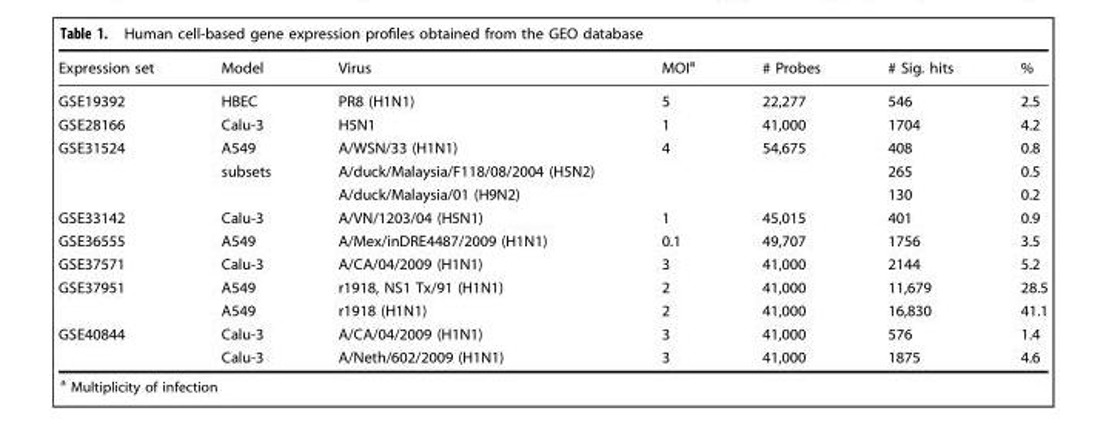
<table><thead><tr><td>Expression set</td><td>Model</td><td>Virus</td><td>MOI<sup>a</sup></td><td># Probes</td><td># Sig. hits</td><td>%</td></tr></thead><tbody><tr><td>GSE19392</td><td>HBEC</td><td>PR8 (H1N1)</td><td>5</td><td>22,277</td><td>546</td><td>2.5</td></tr><tr><td>GSE28166</td><td>Calu-3</td><td>H5N1</td><td>1</td><td>41,000</td><td>1704</td><td>4.2</td></tr><tr><td rowspan="3">GSE31524</td><td>A549</td><td>A/WSN/33 (H1N1)</td><td>4</td><td>54,675</td><td>408</td><td>0.8</td></tr><tr><td>subsets</td><td>A/duck/Malaysia/F118/08/2004 (H5N2)</td><td></td><td></td><td>265</td><td>0.5</td></tr><tr><td></td><td>A/duck/Malaysia/01 (H9N2)</td><td></td><td></td><td>130</td><td>0.2</td></tr><tr><td>GSE33142</td><td>Calu-3</td><td>A/VN/1203/04 (H5N1)</td><td>1</td><td>45,015</td><td>401</td><td>0.9</td></tr><tr><td>GSE36555</td><td>A549</td><td>A/Mex/inDRE4487/2009 (H1N1)</td><td>0.1</td><td>49,707</td><td>1756</td><td>3.5</td></tr><tr><td>GSE37571</td><td>Calu-3</td><td>A/CA/04/2009 (H1N1)</td><td>3</td><td>41,000</td><td>2144</td><td>5.2</td></tr><tr><td rowspan="2">GSE37951</td><td>A549</td><td>r1918, NS1 Tx/91 (H1N1)</td><td>2</td><td>41,000</td><td>11,679</td><td>28.5</td></tr><tr><td>A549</td><td>r1918 (H1N1)</td><td>2</td><td>41,000</td><td>16,830</td><td>41.1</td></tr><tr><td rowspan="2">GSE40844</td><td>Calu-3</td><td>A/CA/04/2009 (H1N1)</td><td>3</td><td>41,000</td><td>576</td><td>1.4</td></tr><tr><td>Calu-3</td><td>A/Neth/602/2009 (H1N1)</td><td>3</td><td>41,000</td><td>1875</td><td>4.6</td></tr></tbody></table>